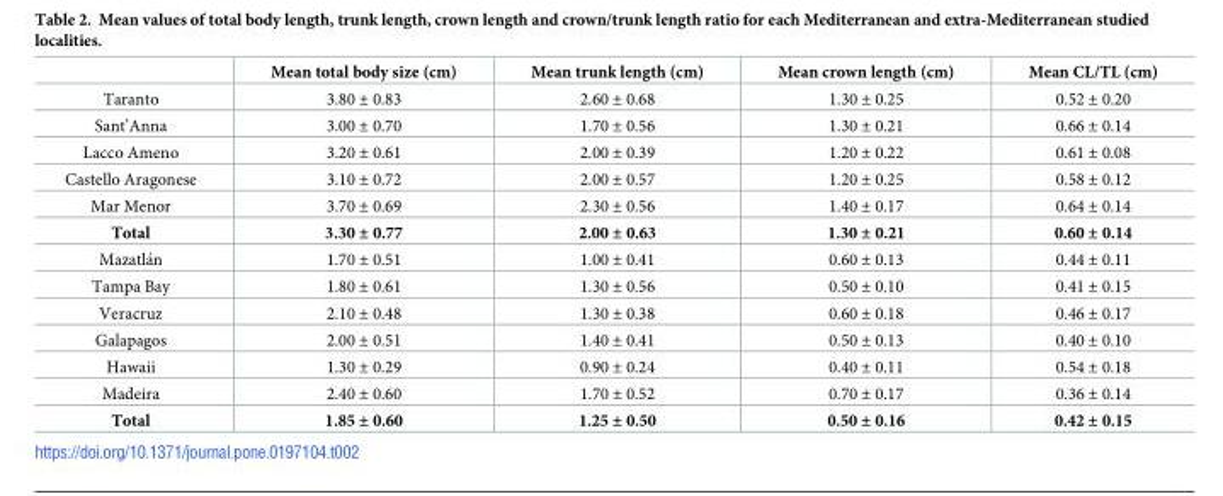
<table><thead><tr><td></td><td>Mean total body size (cm)</td><td>Mean trunk length (cm)</td><td>Mean crown length (cm)</td><td>Mean CL/TL (cm)</td></tr></thead><tbody><tr><td>Taranto</td><td>3.80 ± 0.83</td><td>2.60 ± 0.68</td><td>1.30 ± 0.25</td><td>0.52 ± 0.20</td></tr><tr><td>Sant’Anna</td><td>3.00 ± 0.70</td><td>1.70 ± 0.56</td><td>1.30 ± 0.21</td><td>0.66 ± 0.14</td></tr><tr><td>Lacco Ameno</td><td>3.20 ± 0.61</td><td>2.00 ± 0.39</td><td>1.20 ± 0.22</td><td>0.61 ± 0.08</td></tr><tr><td>Castello Aragonese</td><td>3.10 ± 0.72</td><td>2.00 ± 0.57</td><td>1.20 ± 0.25</td><td>0.58 ± 0.12</td></tr><tr><td>Mar Menor</td><td>3.70 ± 0.69</td><td>2.30 ± 0.56</td><td>1.40 ± 0.17</td><td>0.64 ± 0.14</td></tr><tr><td>Total</td><td>3.30 ± 0.77</td><td>2.00 ± 0.63</td><td>1.30 ± 0.21</td><td>0.60 ± 0.14</td></tr><tr><td>Mazatla´n</td><td>1.70 ± 0.51</td><td>1.00 ± 0.41</td><td>0.60 ± 0.13</td><td>0.44 ± 0.11</td></tr><tr><td>Tampa Bay</td><td>1.80 ± 0.61</td><td>1.30 ± 0.56</td><td>0.50 ± 0.10</td><td>0.41 ± 0.15</td></tr><tr><td>Veracruz</td><td>2.10 ± 0.48</td><td>1.30 ± 0.38</td><td>0.60 ± 0.18</td><td>0.46 ± 0.17</td></tr><tr><td>Galapagos</td><td>2.00 ± 0.51</td><td>1.40 ± 0.41</td><td>0.50 ± 0.13</td><td>0.40 ± 0.10</td></tr><tr><td>Hawaii</td><td>1.30 ± 0.29</td><td>0.90 ± 0.24</td><td>0.40 ± 0.11</td><td>0.54 ± 0.18</td></tr><tr><td>Madeira</td><td>2.40 ± 0.60</td><td>1.70 ± 0.52</td><td>0.70 ± 0.17</td><td>0.36 ± 0.14</td></tr><tr><td>Total</td><td>1.85 ± 0.60</td><td>1.25 ± 0.50</td><td>0.50 ± 0.16</td><td>0.42 ± 0.15</td></tr></tbody></table>